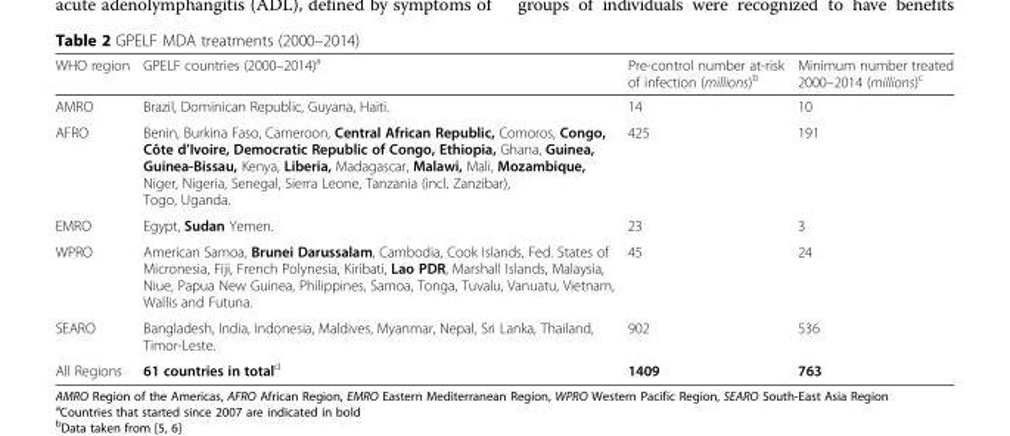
<table><thead><tr><td>WHO region</td><td>GPELF countries (2000–2014)<sup>a</sup></td><td>Pre-control number at-risk of infection (millions)<sup>b</sup></td><td>Minimum number treated 2000–2014 (millions)<sup>c</sup></td></tr></thead><tbody><tr><td>AMRO</td><td>Brazil, Dominican Republic, Guyana, Haiti.</td><td>14</td><td>10</td></tr><tr><td>AFRO</td><td>Benin, Burkina Faso, Cameroon, Central African Republic, Comoros, Congo, Côte d’Ivoire, Democratic Republic of Congo, Ethiopia, Ghana, Guinea, Guinea-Bissau, Kenya, Liberia, Madagascar, Malawi, Mali, Mozambique, Niger, Nigeria, Senegal, Sierra Leone, Tanzania (incl. Zanzibar), Togo, Uganda.</td><td>425</td><td>191</td></tr><tr><td>EMRO</td><td>Egypt, Sudan Yemen.</td><td>23</td><td>3</td></tr><tr><td>WPRO</td><td>American Samoa, Brunei Darussalam, Cambodia, Cook Islands, Fed. States of Micronesia, Fiji, French Polynesia, Kiribati, Lao PDR, Marshall Islands, Malaysia, Niue, Papua New Guinea, Philippines, Samoa, Tonga, Tuvalu, Vanuatu, Vietnam, Wallis and Futuna.</td><td>45</td><td>24</td></tr><tr><td>SEARO</td><td>Bangladesh, India, Indonesia, Maldives, Myanmar, Nepal, Sri Lanka, Thailand, Timor-Leste.</td><td>902</td><td>536</td></tr><tr><td>All Regions</td><td>61 countries in total<sup>d</sup></td><td>1409</td><td>763</td></tr></tbody></table>